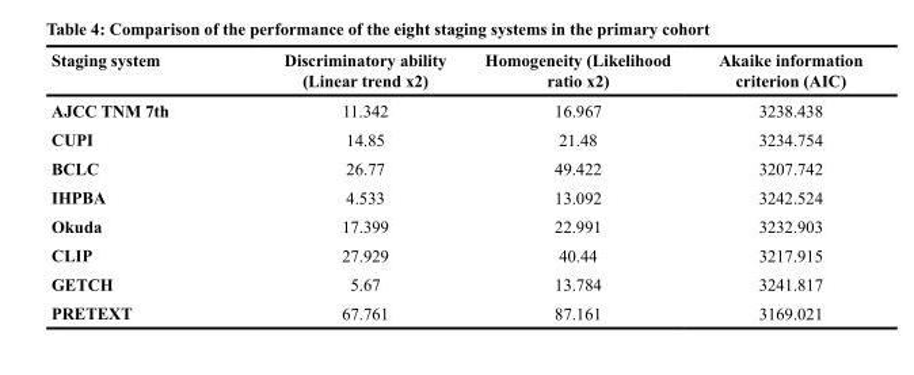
<table><thead><tr><td>Staging system</td><td>Discriminatory ability (Linear trend x2)</td><td>Homogeneity (Likelihood ratio x2)</td><td>Akaike information criterion (AIC)</td></tr></thead><tbody><tr><td>AJCC TNM 7th</td><td>11.342</td><td>16.967</td><td>3238.438</td></tr><tr><td>CUPI</td><td>14.85</td><td>21.48</td><td>3234.754</td></tr><tr><td>BCLC</td><td>26.77</td><td>49.422</td><td>3207.742</td></tr><tr><td>IHPBA</td><td>4.533</td><td>13.092</td><td>3242.524</td></tr><tr><td>Okuda</td><td>17.399</td><td>22.991</td><td>3232.903</td></tr><tr><td>CLIP</td><td>27.929</td><td>40.44</td><td>3217.915</td></tr><tr><td>GETCH</td><td>5.67</td><td>13.784</td><td>3241.817</td></tr><tr><td>PRETEXT</td><td>67.761</td><td>87.161</td><td>3169.021</td></tr></tbody></table>